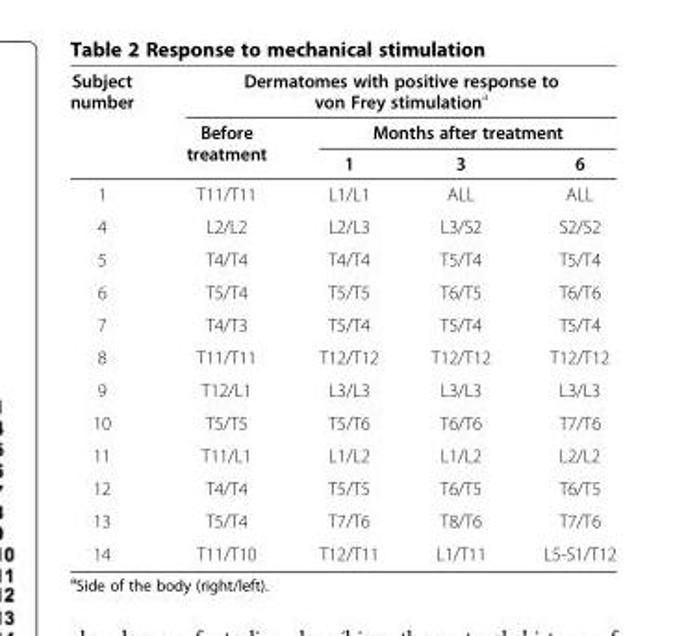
<table><thead><tr><td rowspan="3">Subject number</td><td colspan="4">Dermatomes with positive response to von Frey stimulation<sup>a</sup></td></tr><tr><td rowspan="2">Before treatment</td><td colspan="3">Months after treatment</td></tr><tr><td>1</td><td>3</td><td>6</td></tr></thead><tbody><tr><td>1</td><td>T11/T11</td><td>L1/L1</td><td>ALL</td><td>ALL</td></tr><tr><td>4</td><td>L2/L2</td><td>L2/L3</td><td>L3/S2</td><td>S2/S2</td></tr><tr><td>5</td><td>T4/T4</td><td>T4/T4</td><td>T5/T4</td><td>T5/T4</td></tr><tr><td>6</td><td>T5/T4</td><td>T5/T5</td><td>T6/T5</td><td>T6/T6</td></tr><tr><td>7</td><td>T4/T3</td><td>T5/T4</td><td>T5/T4</td><td>T5/T4</td></tr><tr><td>8</td><td>T11/T11</td><td>T12/T12</td><td>T12/T12</td><td>T12/T12</td></tr><tr><td>9</td><td>T12/L1</td><td>L3/L3</td><td>L3/L3</td><td>L3/L3</td></tr><tr><td>10</td><td>T5/T5</td><td>T5/T6</td><td>T6/T6</td><td>T7/T6</td></tr><tr><td>11</td><td>T11/L1</td><td>L1/L2</td><td>L1/L2</td><td>L2/L2</td></tr><tr><td>12</td><td>T4/T4</td><td>T5/T5</td><td>T6/T5</td><td>T6/T5</td></tr><tr><td>13</td><td>T5/T4</td><td>T7/T6</td><td>T8/T6</td><td>T7/T6</td></tr><tr><td>14</td><td>T11/T10</td><td>T12/T11</td><td>L1/T11</td><td>L5-S1/T12</td></tr></tbody></table>